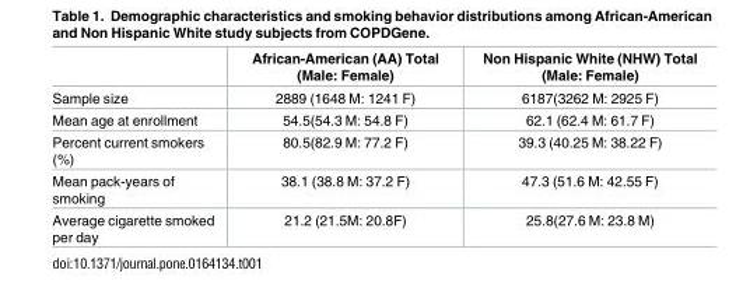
<table><thead><tr><td></td><td>African-American (AA) Total (Male: Female)</td><td>Non Hispanic White (NHW) Total (Male: Female)</td></tr></thead><tbody><tr><td>Sample size</td><td>2889 (1648 M: 1241 F)</td><td>6187(3262 M: 2925 F)</td></tr><tr><td>Mean age at enrollment</td><td>54.5(54.3 M: 54.8 F)</td><td>62.1 (62.4 M: 61.7 F)</td></tr><tr><td>Percent current smokers (%)</td><td>80.5(82.9 M: 77.2 F)</td><td>39.3 (40.25 M: 38.22 F)</td></tr><tr><td>Mean pack-years of smoking</td><td>38.1 (38.8 M: 37.2 F)</td><td>47.3 (51.6 M: 42.55 F)</td></tr><tr><td>Average cigarette smoked per day</td><td>21.2 (21.5M: 20.8F)</td><td>25.8(27.6 M: 23.8 M)</td></tr></tbody></table>